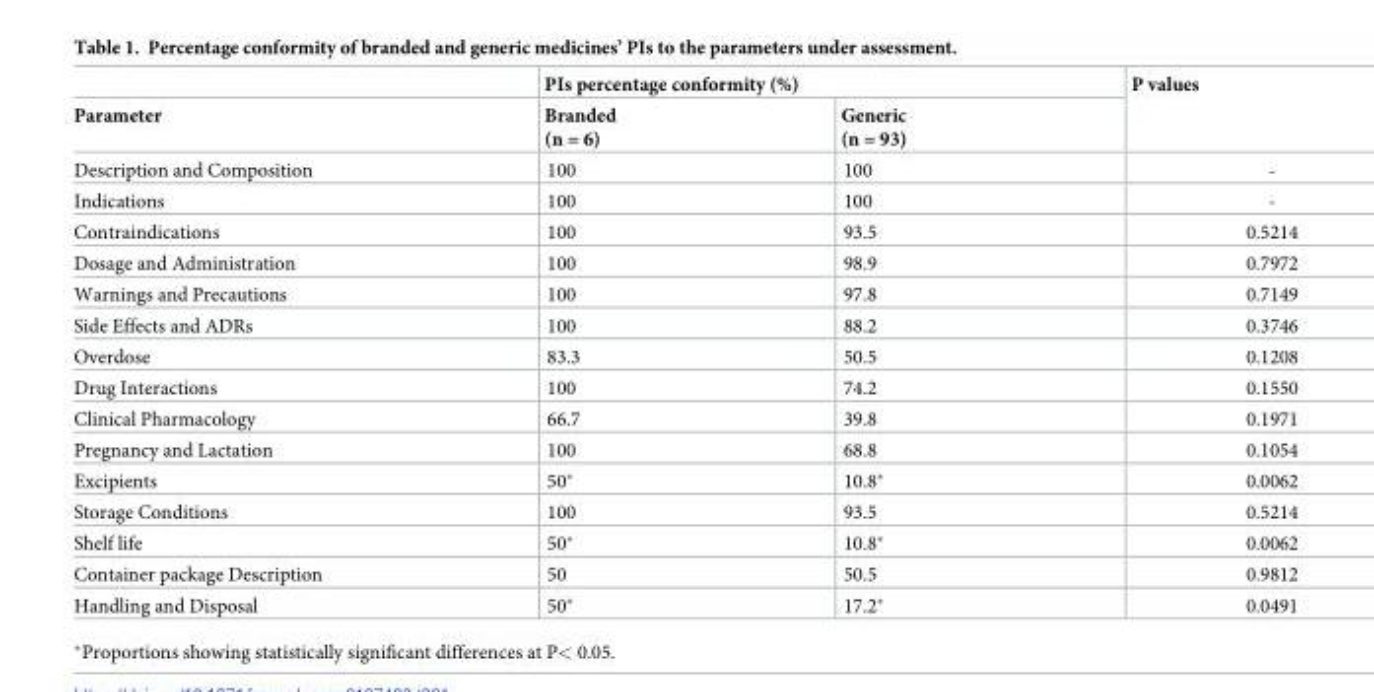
<table><thead><tr><td rowspan="2">Parameter</td><td colspan="2">PIs percentage conformity (%)</td><td rowspan="2">P values</td></tr><tr><td>Branded (n = 6)</td><td>Generic (n = 93)</td></tr></thead><tbody><tr><td>Description and Composition</td><td>100</td><td>100</td><td>-</td></tr><tr><td>Indications</td><td>100</td><td>100</td><td>-</td></tr><tr><td>Contraindications</td><td>100</td><td>93.5</td><td>0.5214</td></tr><tr><td>Dosage and Administration</td><td>100</td><td>98.9</td><td>0.7972</td></tr><tr><td>Warnings and Precautions</td><td>100</td><td>97.8</td><td>0.7149</td></tr><tr><td>Side Effects and ADRs</td><td>100</td><td>88.2</td><td>0.3746</td></tr><tr><td>Overdose</td><td>83.3</td><td>50.5</td><td>0.1208</td></tr><tr><td>Drug Interactions</td><td>100</td><td>74.2</td><td>0.1550</td></tr><tr><td>Clinical Pharmacology</td><td>66.7</td><td>39.8</td><td>0.1971</td></tr><tr><td>Pregnancy and Lactation</td><td>100</td><td>68.8</td><td>0.1054</td></tr><tr><td>Excipients</td><td>50*</td><td>10.8*</td><td>0.0062</td></tr><tr><td>Storage Conditions</td><td>100</td><td>93.5</td><td>0.5214</td></tr><tr><td>Shelf life</td><td>50*</td><td>10.8*</td><td>0.0062</td></tr><tr><td>Container package Description</td><td>50</td><td>50.5</td><td>0.9812</td></tr><tr><td>Handling and Disposal</td><td>50*</td><td>17.2*</td><td>0.0491</td></tr></tbody></table>